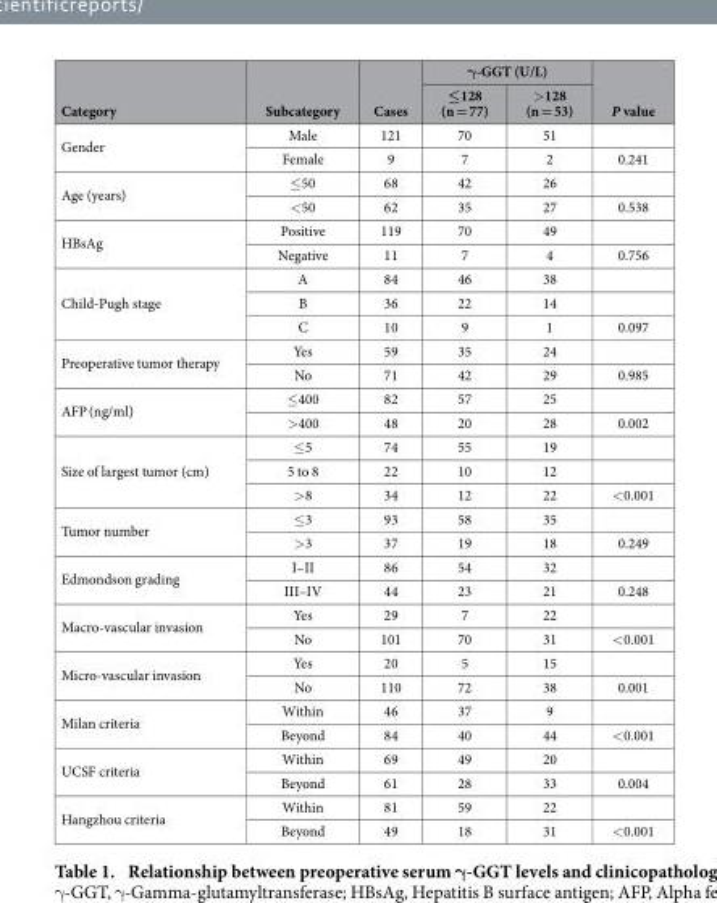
<table><thead><tr><td rowspan="2">Category</td><td rowspan="2">Subcategory</td><td rowspan="2">Cases</td><td colspan="2">γ-GGT (U/L)</td><td rowspan="2">P value</td></tr><tr><td>≤128 (n = 77)</td><td>&gt; 128 (n = 53)</td></tr></thead><tbody><tr><td rowspan="2">Gender</td><td>Male</td><td>121</td><td>70</td><td>51</td><td></td></tr><tr><td>Female</td><td>9</td><td>7</td><td>2</td><td>0.241</td></tr><tr><td rowspan="2">Age (years)</td><td>≤ 50</td><td>68</td><td>42</td><td>26</td><td></td></tr><tr><td>&lt; 50</td><td>62</td><td>35</td><td>27</td><td>0.538</td></tr><tr><td rowspan="2">HBsAg</td><td>Positive</td><td>119</td><td>70</td><td>49</td><td></td></tr><tr><td>Negative</td><td>11</td><td>7</td><td>4</td><td>0.756</td></tr><tr><td rowspan="3">Child-Pugh stage</td><td>A</td><td>84</td><td>46</td><td>38</td><td></td></tr><tr><td>B</td><td>36</td><td>22</td><td>14</td><td></td></tr><tr><td>C</td><td>10</td><td>9</td><td>1</td><td>0.097</td></tr><tr><td rowspan="2">Preoperative tumor therapy</td><td>Yes</td><td>59</td><td>35</td><td>24</td><td></td></tr><tr><td>No</td><td>71</td><td>42</td><td>29</td><td>0.985</td></tr><tr><td rowspan="2">AFP (ng/ml)</td><td>≤ 400</td><td>82</td><td>57</td><td>25</td><td></td></tr><tr><td>&gt; 400</td><td>48</td><td>20</td><td>28</td><td>0.002</td></tr><tr><td rowspan="3">Size of largest tumor (cm)</td><td>≤ 5</td><td>74</td><td>55</td><td>19</td><td></td></tr><tr><td>5 to 8</td><td>22</td><td>10</td><td>12</td><td></td></tr><tr><td>&gt; 8</td><td>34</td><td>12</td><td>22</td><td>&lt; 0.001</td></tr><tr><td rowspan="2">Tumor number</td><td>≤ 3</td><td>93</td><td>58</td><td>35</td><td></td></tr><tr><td>&gt; 3</td><td>37</td><td>19</td><td>18</td><td>0.249</td></tr><tr><td rowspan="2">Edmondson grading</td><td>I–II</td><td>86</td><td>54</td><td>32</td><td></td></tr><tr><td>III–IV</td><td>44</td><td>23</td><td>21</td><td>0.248</td></tr><tr><td rowspan="2">Macro-vascular invasion</td><td>Yes</td><td>29</td><td>7</td><td>22</td><td></td></tr><tr><td>No</td><td>101</td><td>70</td><td>31</td><td>&lt; 0.001</td></tr><tr><td rowspan="2">Micro-vascular invasion</td><td>Yes</td><td>20</td><td>5</td><td>15</td><td></td></tr><tr><td>No</td><td>110</td><td>72</td><td>38</td><td>0.001</td></tr><tr><td rowspan="2">Milan criteria</td><td>Within</td><td>46</td><td>37</td><td>9</td><td></td></tr><tr><td>Beyond</td><td>84</td><td>40</td><td>44</td><td>&lt; 0.001</td></tr><tr><td rowspan="2">UCSF criteria</td><td>Within</td><td>69</td><td>49</td><td>20</td><td></td></tr><tr><td>Beyond</td><td>61</td><td>28</td><td>33</td><td>0.004</td></tr><tr><td rowspan="2">Hangzhou criteria</td><td>Within</td><td>81</td><td>59</td><td>22</td><td></td></tr><tr><td>Beyond</td><td>49</td><td>18</td><td>31</td><td>&lt; 0.001</td></tr></tbody></table>